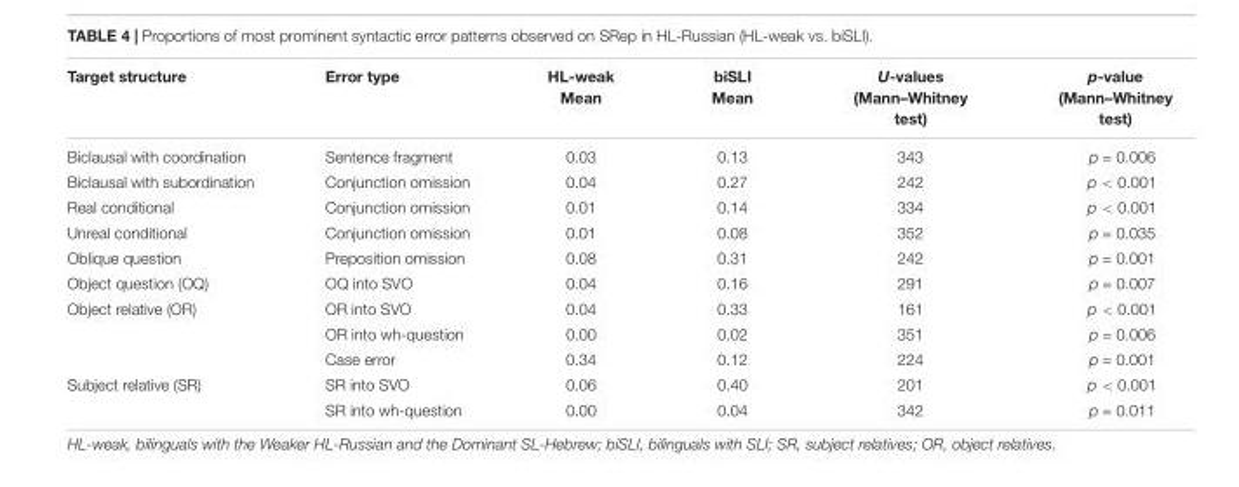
<table><thead><tr><td>Target structure</td><td>Error type</td><td>HL-weak Mean</td><td>biSLI Mean</td><td>U-values (Mann–Whitney test)</td><td>p-value (Mann–Whitney test)</td></tr></thead><tbody><tr><td>Biclausal with coordination</td><td>Sentence fragment</td><td>0.03</td><td>0.13</td><td>343</td><td>p = 0.006</td></tr><tr><td>Biclausal with subordination</td><td>Conjunction omission</td><td>0.04</td><td>0.27</td><td>242</td><td>p &lt; 0.001</td></tr><tr><td>Real conditional</td><td>Conjunction omission</td><td>0.01</td><td>0.14</td><td>334</td><td>p &lt; 0.001</td></tr><tr><td>Unreal conditional</td><td>Conjunction omission</td><td>0.01</td><td>0.08</td><td>352</td><td>p = 0.035</td></tr><tr><td>Oblique question</td><td>Preposition omission</td><td>0.08</td><td>0.31</td><td>242</td><td>p = 0.001</td></tr><tr><td>Object question (OQ)</td><td>OQ into SVO</td><td>0.04</td><td>0.16</td><td>291</td><td>p = 0.007</td></tr><tr><td rowspan="3">Object relative (OR)</td><td>OR into SVO</td><td>0.04</td><td>0.33</td><td>161</td><td>p &lt; 0.001</td></tr><tr><td>OR into wh-question</td><td>0.00</td><td>0.02</td><td>351</td><td>p = 0.006</td></tr><tr><td>Case error</td><td>0.34</td><td>0.12</td><td>224</td><td>p = 0.001</td></tr><tr><td rowspan="2">Subject relative (SR)</td><td>SR into SVO</td><td>0.06</td><td>0.40</td><td>201</td><td>p &lt; 0.001</td></tr><tr><td>SR into wh-question</td><td>0.00</td><td>0.04</td><td>342</td><td>p = 0.011</td></tr></tbody></table>